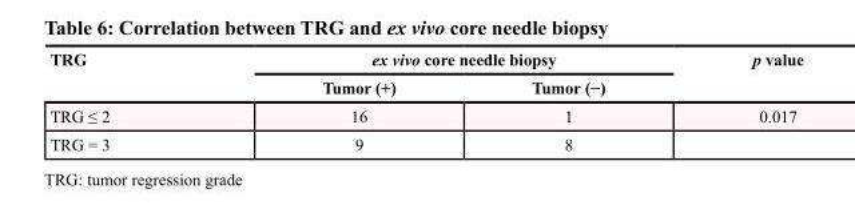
<table><thead><tr><td rowspan="2">TRG</td><td colspan="2">ex vivo core needle biopsy</td><td rowspan="2">p value</td></tr><tr><td>Tumor (+)</td><td>Tumor (−)</td></tr></thead><tbody><tr><td>TRG ≤ 2</td><td>16</td><td>1</td><td>0.017</td></tr><tr><td>TRG = 3</td><td>9</td><td>8</td><td></td></tr></tbody></table>